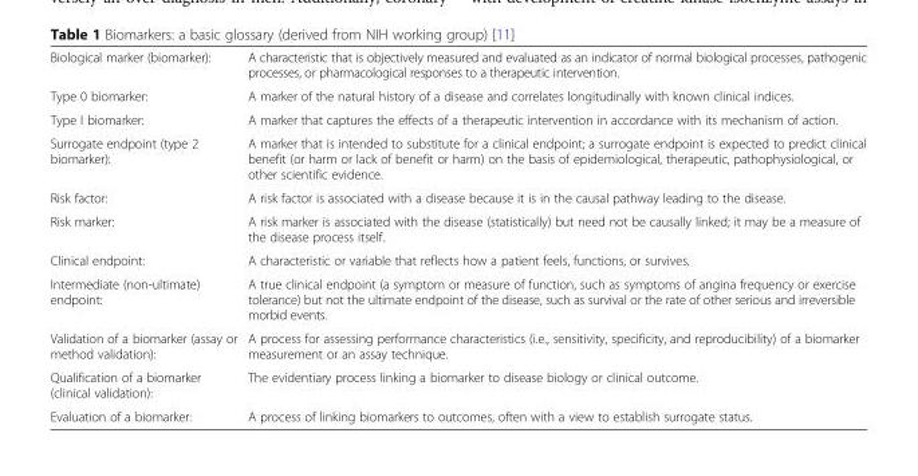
<table><tbody><tr><td>Biological marker (biomarker):</td><td>A characteristic that is objectively measured and evaluated as an indicator of normal biological processes, pathogenic processes, or pharmacological responses to a therapeutic intervention.</td></tr><tr><td>Type 0 biomarker:</td><td>A marker of the natural history of a disease and correlates longitudinally with known clinical indices.</td></tr><tr><td>Type I biomarker:</td><td>A marker that captures the effects of a therapeutic intervention in accordance with its mechanism of action.</td></tr><tr><td>Surrogate endpoint (type 2 biomarker):</td><td>A marker that is intended to substitute for a clinical endpoint; a surrogate endpoint is expected to predict clinical benefit (or harm or lack of benefit or harm) on the basis of epidemiological, therapeutic, pathophysiological, or other scientific evidence.</td></tr><tr><td>Risk factor:</td><td>A risk factor is associated with a disease because it is in the causal pathway leading to the disease.</td></tr><tr><td>Risk marker:</td><td>A risk marker is associated with the disease (statistically) but need not be causally linked; it may be a measure of the disease process itself.</td></tr><tr><td>Clinical endpoint:</td><td>A characteristic or variable that reflects how a patient feels, functions, or survives.</td></tr><tr><td>Intermediate (non-ultimate) endpoint:</td><td>A true clinical endpoint (a symptom or measure of function, such as symptoms of angina frequency or exercise tolerance) but not the ultimate endpoint of the disease, such as survival or the rate of other serious and irreversible morbid events.</td></tr><tr><td>Validation of a biomarker (assay or method validation):</td><td>A process for assessing performance characteristics (i.e., sensitivity, specificity, and reproducibility) of a biomarker measurement or an assay technique.</td></tr><tr><td>Qualification of a biomarker (clinical validation):</td><td>The evidentiary process linking a biomarker to disease biology or clinical outcome.</td></tr><tr><td>Evaluation of a biomarker:</td><td>A process of linking biomarkers to outcomes, often with a view to establish surrogate status.</td></tr></tbody></table>